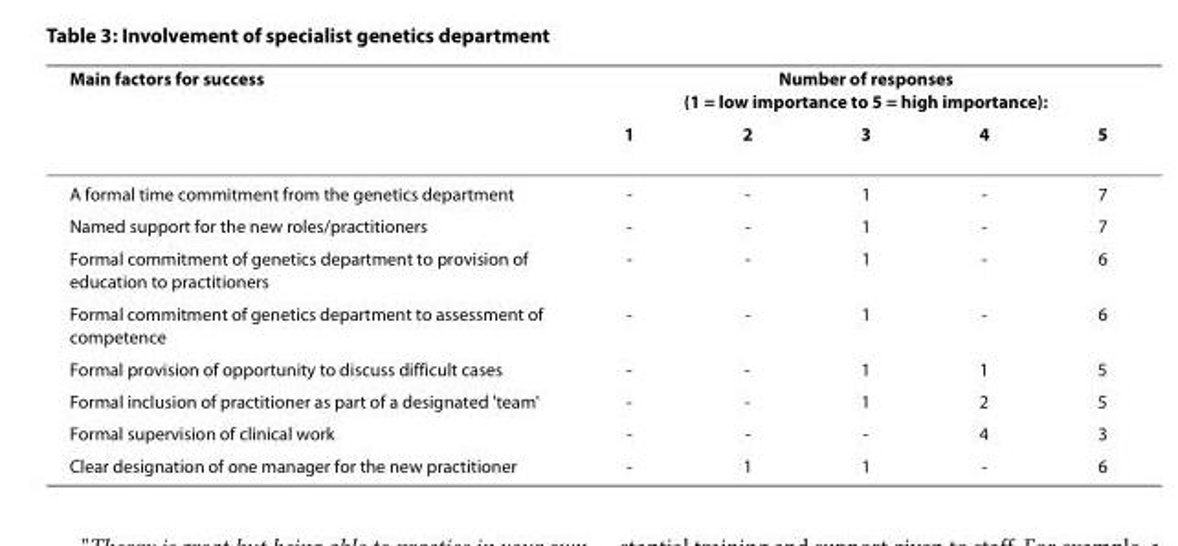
<table><thead><tr><td rowspan="2">Main factors for success</td><td colspan="5">Number of responses (1 = low importance to 5 = high importance):</td></tr><tr><td>1</td><td>2</td><td>3</td><td>4</td><td>5</td></tr></thead><tbody><tr><td>A formal time commitment from the genetics department</td><td>-</td><td>-</td><td>1</td><td>-</td><td>7</td></tr><tr><td>Named support for the new roles/practitioners</td><td>-</td><td>-</td><td>1</td><td>-</td><td>7</td></tr><tr><td>Formal commitment of genetics department to provision of education to practitioners</td><td>-</td><td>-</td><td>1</td><td>-</td><td>6</td></tr><tr><td>Formal commitment of genetics department to assessment of competence</td><td>-</td><td>-</td><td>1</td><td>-</td><td>6</td></tr><tr><td>Formal provision of opportunity to discuss difficult cases</td><td>-</td><td>-</td><td>1</td><td>1</td><td>5</td></tr><tr><td>Formal inclusion of practitioner as part of a designated &#x27;team&#x27;</td><td>-</td><td>-</td><td>1</td><td>2</td><td>5</td></tr><tr><td>Formal supervision of clinical work</td><td>-</td><td>-</td><td>-</td><td>4</td><td>3</td></tr><tr><td>Clear designation of one manager for the new practitioner</td><td>-</td><td>1</td><td>1</td><td>-</td><td>6</td></tr></tbody></table>